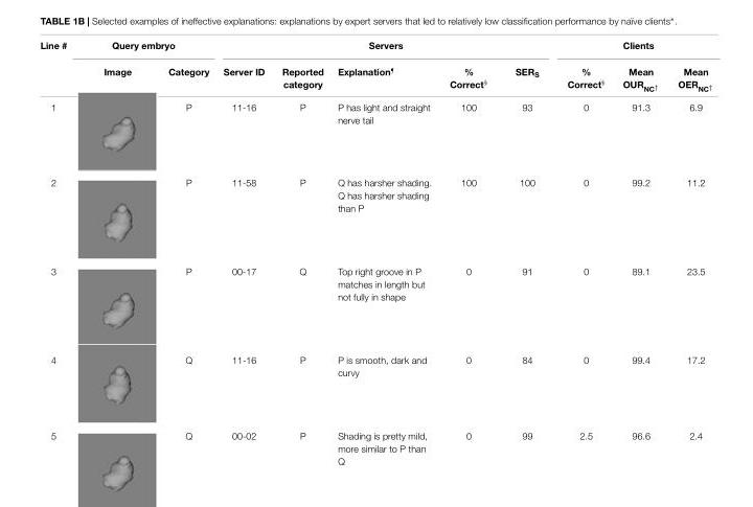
<table><thead><tr><td rowspan="2">Line #</td><td colspan="2">Query embryo</td><td colspan="5">Servers</td><td colspan="2">Clients</td><td rowspan="2">Mean OER<sub>NC</sub><sup><sub>†</sub></sup></td></tr><tr><td>Image</td><td>Category</td><td>Server ID</td><td>Reported category</td><td>Explanation<sup>¶</sup></td><td>% Correct<sup>§</sup></td><td>SER<sub>S</sub></td><td>% Correct<sup>§</sup></td><td>Mean OUR<sub>NC</sub><sup><sub>†</sub></sup></td></tr></thead><tbody><tr><td>1</td><td></td><td>P</td><td>11-16</td><td>P</td><td>P has light and straight nerve tail</td><td>100</td><td>93</td><td>0</td><td>91.3</td><td>6.9</td></tr><tr><td>2</td><td></td><td>P</td><td>11-58</td><td>P</td><td>Q has harsher shading. Q has harsher shading than P</td><td>100</td><td>100</td><td>0</td><td>99.2</td><td>11.2</td></tr><tr><td>3</td><td></td><td>P</td><td>00-17</td><td>Q</td><td>Top right groove in P matches in length but not fully in shape</td><td>0</td><td>91</td><td>0</td><td>89.1</td><td>23.5</td></tr><tr><td>4</td><td></td><td>Q</td><td>11-16</td><td>P</td><td>P is smooth, dark and curvy</td><td>0</td><td>84</td><td>0</td><td>99.4</td><td>17.2</td></tr><tr><td>5</td><td></td><td>Q</td><td>00-02</td><td>P</td><td>Shading is pretty mild, more similar to P than Q</td><td>0</td><td>99</td><td>2.5</td><td>96.6</td><td>2.4</td></tr></tbody></table>